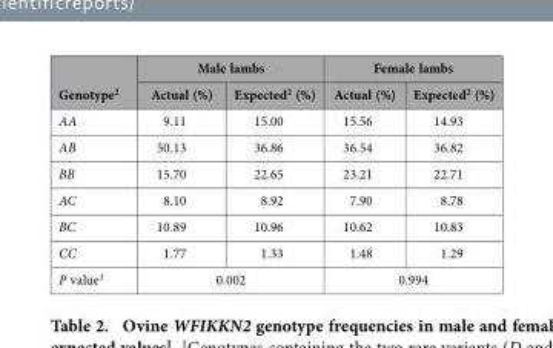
<table><thead><tr><td rowspan="2">Genotype<sup>2</sup></td><td colspan="2">Male lambs</td><td colspan="2">Female lambs</td></tr><tr><td>Actual (%)</td><td>Expected<sup>2</sup> (%)</td><td>Actual (%)</td><td>Expected<sup>2</sup> (%)</td></tr></thead><tbody><tr><td>AA</td><td>9.11</td><td>15.00</td><td>15.56</td><td>14.93</td></tr><tr><td>AB</td><td>50.13</td><td>36.86</td><td>36.54</td><td>36.82</td></tr><tr><td>BB</td><td>15.70</td><td>22.65</td><td>23.21</td><td>22.71</td></tr><tr><td>AC</td><td>8.10</td><td>8.92</td><td>7.90</td><td>8.78</td></tr><tr><td>BC</td><td>10.89</td><td>10.96</td><td>10.62</td><td>10.83</td></tr><tr><td>CC</td><td>1.77</td><td>1.33</td><td>1.48</td><td>1.29</td></tr><tr><td>P value<sup>3</sup></td><td colspan="2">0.002</td><td colspan="2">0.994</td></tr></tbody></table>